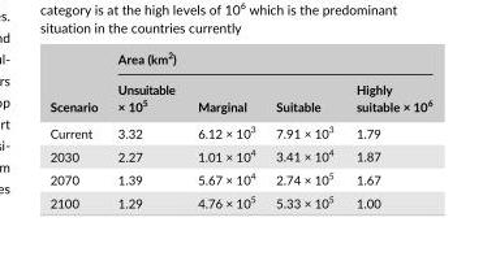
<table><thead><tr><td rowspan="2">Scenario</td><td colspan="4">Area (km<sup>2</sup>)</td></tr><tr><td>Unsuitable × 10<sup>5</sup></td><td>Marginal</td><td>Suitable</td><td>Highly suitable × 10<sup>6</sup></td></tr></thead><tbody><tr><td>Current</td><td>3.32</td><td>6.12 × 10<sup>3</sup></td><td>7.91 × 10<sup>3</sup></td><td>1.79</td></tr><tr><td>2030</td><td>2.27</td><td>1.01 × 10<sup>4</sup></td><td>3.41 × 10<sup>4</sup></td><td>1.87</td></tr><tr><td>2070</td><td>1.39</td><td>5.67 × 10<sup>4</sup></td><td>2.74 × 10<sup>5</sup></td><td>1.67</td></tr><tr><td>2100</td><td>1.29</td><td>4.76 × 10<sup>5</sup></td><td>5.33 × 10<sup>5</sup></td><td>1.00</td></tr></tbody></table>